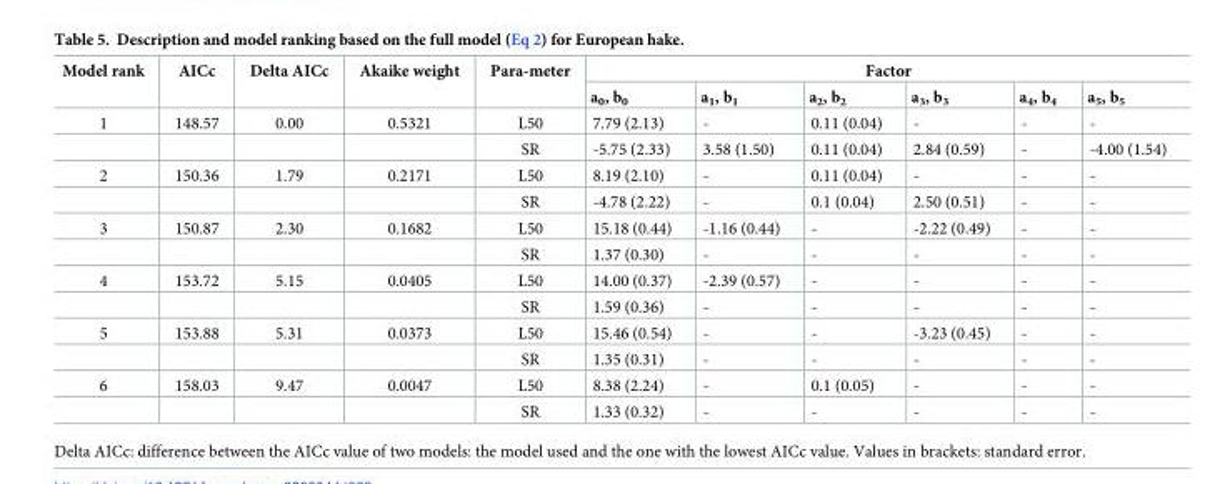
<table><thead><tr><td rowspan="2">Model rank</td><td rowspan="2">AICc</td><td rowspan="2">Delta AICc</td><td rowspan="2">Akaike weight</td><td rowspan="2">Para-meter</td><td colspan="6">Factor</td></tr><tr><td>a<sub>0</sub>, b<sub>0</sub></td><td>a<sub>1</sub>, b<sub>1</sub></td><td>a<sub>2</sub>, b<sub>2</sub></td><td>a<sub>3</sub>, b<sub>3</sub></td><td>a<sub>4</sub>, b<sub>4</sub></td><td>a<sub>5</sub>, b<sub>5</sub></td></tr></thead><tbody><tr><td rowspan="2">1</td><td>148.57</td><td>0.00</td><td>0.5321</td><td>L50</td><td>7.79 (2.13)</td><td>-</td><td>0.11 (0.04)</td><td>-</td><td>-</td><td>-</td></tr><tr><td></td><td></td><td></td><td>SR</td><td>-5.75 (2.33)</td><td>3.58 (1.50)</td><td>0.11 (0.04)</td><td>2.84 (0.59)</td><td>-</td><td>-4.00 (1.54)</td></tr><tr><td rowspan="2">2</td><td>150.36</td><td>1.79</td><td>0.2171</td><td>L50</td><td>8.19 (2.10)</td><td>-</td><td>0.11 (0.04)</td><td>-</td><td>-</td><td>-</td></tr><tr><td></td><td></td><td></td><td>SR</td><td>-4.78 (2.22)</td><td>-</td><td>0.1 (0.04)</td><td>2.50 (0.51)</td><td>-</td><td>-</td></tr><tr><td rowspan="2">3</td><td>150.87</td><td>2.30</td><td>0.1682</td><td>L50</td><td>15.18 (0.44)</td><td>-1.16 (0.44)</td><td>-</td><td>-2.22 (0.49)</td><td>-</td><td>-</td></tr><tr><td></td><td></td><td></td><td>SR</td><td>1.37 (0.30)</td><td>-</td><td>-</td><td>-</td><td>-</td><td>-</td></tr><tr><td rowspan="2">4</td><td>153.72</td><td>5.15</td><td>0.0405</td><td>L50</td><td>14.00 (0.37)</td><td>-2.39 (0.57)</td><td>-</td><td>-</td><td>-</td><td>-</td></tr><tr><td></td><td></td><td></td><td>SR</td><td>1.59 (0.36)</td><td>-</td><td>-</td><td>-</td><td>-</td><td>-</td></tr><tr><td rowspan="2">5</td><td>153.88</td><td>5.31</td><td>0.0373</td><td>L50</td><td>15.46 (0.54)</td><td>-</td><td>-</td><td>-3.23 (0.45)</td><td>-</td><td>-</td></tr><tr><td></td><td></td><td></td><td>SR</td><td>1.35 (0.31)</td><td>-</td><td>-</td><td>-</td><td>-</td><td>-</td></tr><tr><td rowspan="2">6</td><td>158.03</td><td>9.47</td><td>0.0047</td><td>L50</td><td>8.38 (2.24)</td><td>-</td><td>0.1 (0.05)</td><td>-</td><td>-</td><td>-</td></tr><tr><td></td><td></td><td></td><td>SR</td><td>1.33 (0.32)</td><td>-</td><td>-</td><td>-</td><td>-</td><td>-</td></tr></tbody></table>